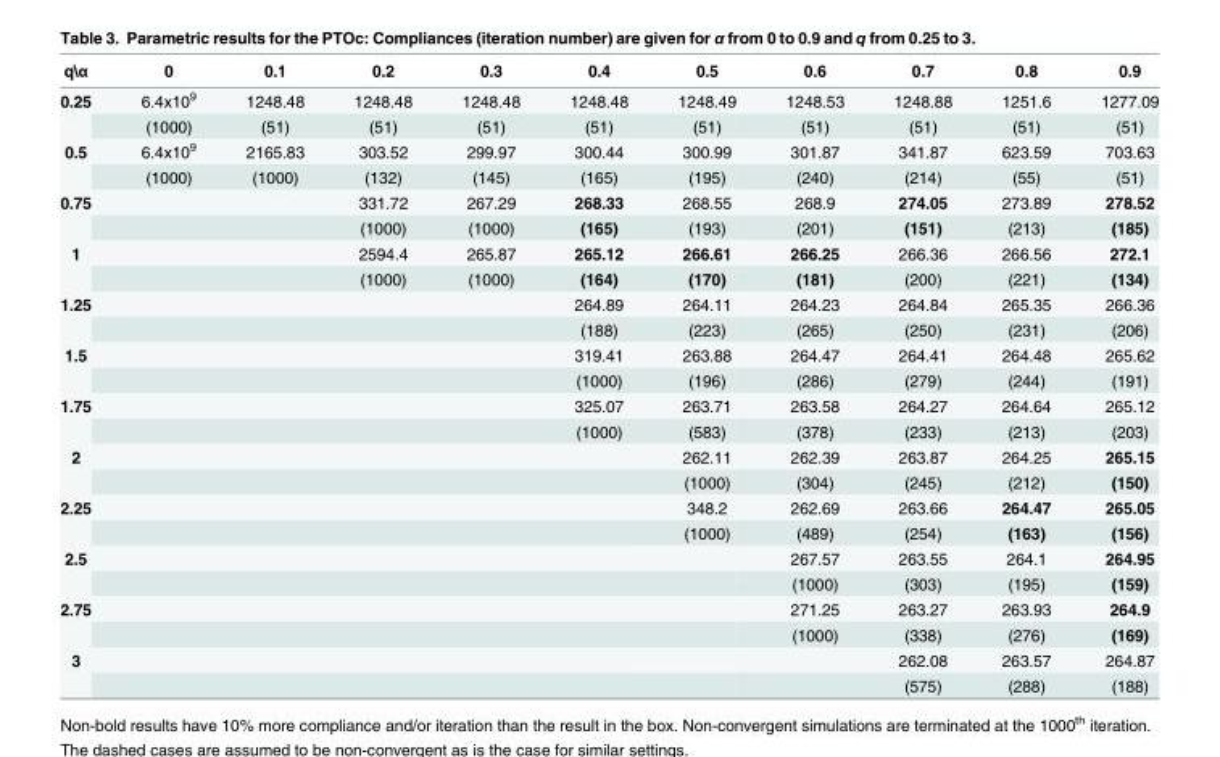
<table><thead><tr><td>q\\u03b1</td><td>0</td><td>0.1</td><td>0.2</td><td>0.3</td><td>0.4</td><td>0.5</td><td>0.6</td><td>0.7</td><td>0.8</td><td>0.9</td></tr></thead><tbody><tr><td rowspan="2">0.25</td><td>6.4x10<sup>9</sup></td><td>1248.48</td><td>1248.48</td><td>1248.48</td><td>1248.48</td><td>1248.49</td><td>1248.53</td><td>1248.88</td><td>1251.6</td><td>1277.09</td></tr><tr><td>(1000)</td><td>(51)</td><td>(51)</td><td>(51)</td><td>(51)</td><td>(51)</td><td>(51)</td><td>(51)</td><td>(51)</td><td>(51)</td></tr><tr><td rowspan="2">0.5</td><td>6.4x10<sup>9</sup></td><td>2165.83</td><td>303.52</td><td>299.97</td><td>300.44</td><td>300.99</td><td>301.87</td><td>341.87</td><td>623.59</td><td>703.63</td></tr><tr><td>(1000)</td><td>(1000)</td><td>(132)</td><td>(145)</td><td>(165)</td><td>(195)</td><td>(240)</td><td>(214)</td><td>(55)</td><td>(51)</td></tr><tr><td rowspan="2">0.75</td><td></td><td></td><td>331.72</td><td>267.29</td><td>268.33</td><td>268.55</td><td>268.9</td><td>274.05</td><td>273.89</td><td>278.52</td></tr><tr><td></td><td></td><td>(1000)</td><td>(1000)</td><td>(165)</td><td>(193)</td><td>(201)</td><td>(151)</td><td>(213)</td><td>(185)</td></tr><tr><td rowspan="2">1</td><td></td><td></td><td>2594.4</td><td>265.87</td><td>265.12</td><td>266.61</td><td>266.25</td><td>266.36</td><td>266.56</td><td>272.1</td></tr><tr><td></td><td></td><td>(1000)</td><td>(1000)</td><td>(164)</td><td>(170)</td><td>(181)</td><td>(200)</td><td>(221)</td><td>(134)</td></tr><tr><td rowspan="2">1.25</td><td></td><td></td><td></td><td></td><td>264.89</td><td>264.11</td><td>264.23</td><td>264.84</td><td>265.35</td><td>266.36</td></tr><tr><td></td><td></td><td></td><td></td><td>(188)</td><td>(223)</td><td>(265)</td><td>(250)</td><td>(231)</td><td>(206)</td></tr><tr><td rowspan="2">1.5</td><td></td><td></td><td></td><td></td><td>319.41</td><td>263.88</td><td>264.47</td><td>264.41</td><td>264.48</td><td>265.62</td></tr><tr><td></td><td></td><td></td><td></td><td>(1000)</td><td>(196)</td><td>(286)</td><td>(279)</td><td>(244)</td><td>(191)</td></tr><tr><td rowspan="2">1.75</td><td></td><td></td><td></td><td></td><td>325.07</td><td>263.71</td><td>263.58</td><td>264.27</td><td>264.64</td><td>265.12</td></tr><tr><td></td><td></td><td></td><td></td><td>(1000)</td><td>(583)</td><td>(378)</td><td>(233)</td><td>(213)</td><td>(203)</td></tr><tr><td rowspan="2">2</td><td></td><td></td><td></td><td></td><td></td><td>262.11</td><td>262.39</td><td>263.87</td><td>264.25</td><td>265.15</td></tr><tr><td></td><td></td><td></td><td></td><td></td><td>(1000)</td><td>(304)</td><td>(245)</td><td>(212)</td><td>(150)</td></tr><tr><td rowspan="2">2.25</td><td></td><td></td><td></td><td></td><td></td><td>348.2</td><td>262.69</td><td>263.66</td><td>264.47</td><td>265.05</td></tr><tr><td></td><td></td><td></td><td></td><td></td><td>(1000)</td><td>(489)</td><td>(254)</td><td>(163)</td><td>(156)</td></tr><tr><td rowspan="2">2.5</td><td></td><td></td><td></td><td></td><td></td><td></td><td>267.57</td><td>263.55</td><td>264.1</td><td>264.95</td></tr><tr><td></td><td></td><td></td><td></td><td></td><td></td><td>(1000)</td><td>(303)</td><td>(195)</td><td>(159)</td></tr><tr><td rowspan="2">2.75</td><td></td><td></td><td></td><td></td><td></td><td></td><td>271.25</td><td>263.27</td><td>263.93</td><td>264.9</td></tr><tr><td></td><td></td><td></td><td></td><td></td><td></td><td>(1000)</td><td>(338)</td><td>(276)</td><td>(169)</td></tr><tr><td rowspan="2">3</td><td></td><td></td><td></td><td></td><td></td><td></td><td></td><td>262.08</td><td>263.57</td><td>264.87</td></tr><tr><td></td><td></td><td></td><td></td><td></td><td></td><td></td><td>(575)</td><td>(288)</td><td>(188)</td></tr></tbody></table>